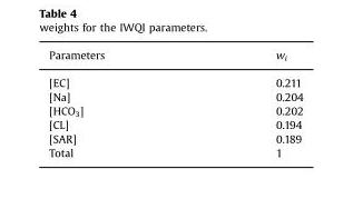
<table><thead><tr><td>Parameters</td><td>w<sub>i</sub></td></tr></thead><tbody><tr><td>[EC]</td><td>0.211</td></tr><tr><td>[Na]</td><td>0.204</td></tr><tr><td>[HCO<sub>3</sub>]</td><td>0.202</td></tr><tr><td>[CL]</td><td>0.194</td></tr><tr><td>[SAR]</td><td>0.189</td></tr><tr><td>Total</td><td>1</td></tr></tbody></table>